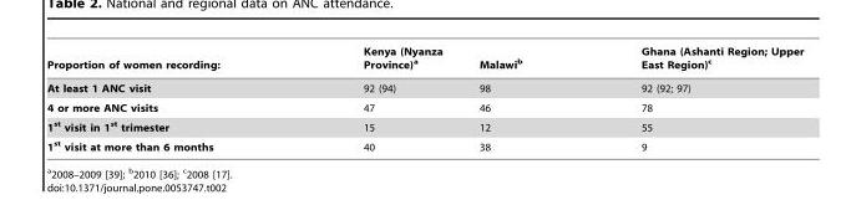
<table><thead><tr><td>Proportion of women recording:</td><td>Kenya (Nyanza Province)<sup>a</sup></td><td>Malawi<sup>b</sup></td><td>Ghana (Ashanti Region; Upper East Region)<sup>c</sup></td></tr></thead><tbody><tr><td>At least 1 ANC visit</td><td>92 (94)</td><td>98</td><td>92 (92; 97)</td></tr><tr><td>4 or more ANC visits</td><td>47</td><td>46</td><td>78</td></tr><tr><td>1<sup>st</sup> visit in 1<sup>st</sup> trimester</td><td>15</td><td>12</td><td>55</td></tr><tr><td>1<sup>st</sup> visit at more than 6 months</td><td>40</td><td>38</td><td>9</td></tr></tbody></table>